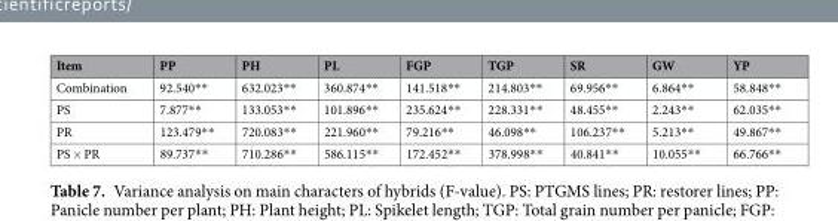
<table><thead><tr><td>Item</td><td>PP</td><td>PH</td><td>PL</td><td>FGP</td><td>TGP</td><td>SR</td><td>GW</td><td>YP</td></tr></thead><tbody><tr><td>Combination</td><td>92.540**</td><td>632.023**</td><td>360.874**</td><td>141.518**</td><td>214.803**</td><td>69.956**</td><td>6.864**</td><td>58.848**</td></tr><tr><td>PS</td><td>7.877**</td><td>133.053**</td><td>101.896**</td><td>235.624**</td><td>228.331**</td><td>48.455**</td><td>2.243**</td><td>62.035**</td></tr><tr><td>PR</td><td>123.479**</td><td>720.083**</td><td>221.960**</td><td>79.216**</td><td>46.098**</td><td>106.237**</td><td>5.213**</td><td>49.867**</td></tr><tr><td>PS × PR</td><td>89.737**</td><td>710.286**</td><td>586.115**</td><td>172.452**</td><td>378.998**</td><td>40.841**</td><td>10.055**</td><td>66.766**</td></tr></tbody></table>